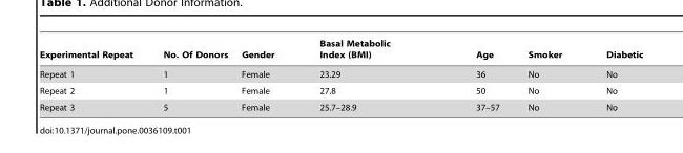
<table><thead><tr><td>Experimental Repeat</td><td>No. Of Donors</td><td>Gender</td><td>Basal Metabolic Index (BMI)</td><td>Age</td><td>Smoker</td><td>Diabetic</td></tr></thead><tbody><tr><td>Repeat 1</td><td>1</td><td>Female</td><td>23.29</td><td>36</td><td>No</td><td>No</td></tr><tr><td>Repeat 2</td><td>1</td><td>Female</td><td>27.8</td><td>50</td><td>No</td><td>No</td></tr><tr><td>Repeat 3</td><td>5</td><td>Female</td><td>25.7–28.9</td><td>37–57</td><td>No</td><td>No</td></tr></tbody></table>